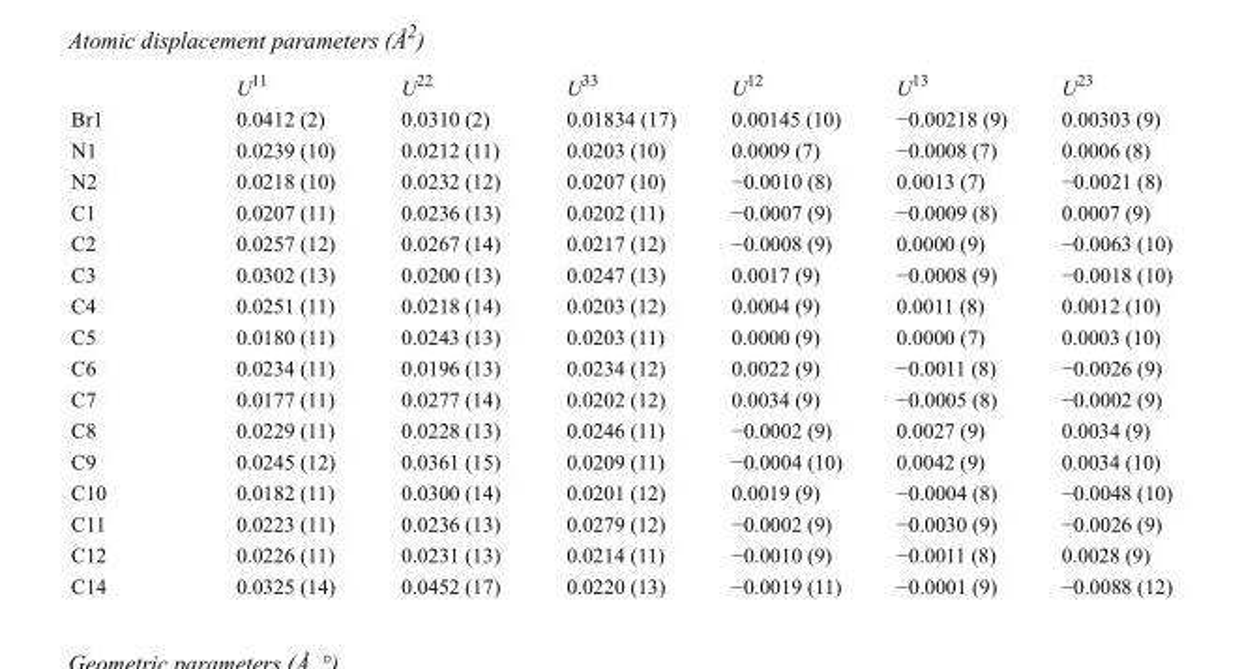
<table><thead><tr><td></td><td>U<sup>11</sup></td><td>U<sup>22</sup></td><td>U<sup>33</sup></td><td>U<sup>12</sup></td><td>U<sup>13</sup></td><td>U<sup>23</sup></td></tr></thead><tbody><tr><td>Br1</td><td>0.0412 (2)</td><td>0.0310 (2)</td><td>0.01834 (17)</td><td>0.00145 (10)</td><td>−0.00218 (9)</td><td>0.00303 (9)</td></tr><tr><td>N1</td><td>0.0239 (10)</td><td>0.0212 (11)</td><td>0.0203 (10)</td><td>0.0009 (7)</td><td>−0.0008 (7)</td><td>0.0006 (8)</td></tr><tr><td>N2</td><td>0.0218 (10)</td><td>0.0232 (12)</td><td>0.0207 (10)</td><td>−0.0010 (8)</td><td>0.0013 (7)</td><td>−0.0021 (8)</td></tr><tr><td>C1</td><td>0.0207 (11)</td><td>0.0236 (13)</td><td>0.0202 (11)</td><td>−0.0007 (9)</td><td>−0.0009 (8)</td><td>0.0007 (9)</td></tr><tr><td>C2</td><td>0.0257 (12)</td><td>0.0267 (14)</td><td>0.0217 (12)</td><td>−0.0008 (9)</td><td>0.0000 (9)</td><td>−0.0063 (10)</td></tr><tr><td>C3</td><td>0.0302 (13)</td><td>0.0200 (13)</td><td>0.0247 (13)</td><td>0.0017 (9)</td><td>−0.0008 (9)</td><td>−0.0018 (10)</td></tr><tr><td>C4</td><td>0.0251 (11)</td><td>0.0218 (14)</td><td>0.0203 (12)</td><td>0.0004 (9)</td><td>0.0011 (8)</td><td>0.0012 (10)</td></tr><tr><td>C5</td><td>0.0180 (11)</td><td>0.0243 (13)</td><td>0.0203 (11)</td><td>0.0000 (9)</td><td>0.0000 (7)</td><td>0.0003 (10)</td></tr><tr><td>C6</td><td>0.0234 (11)</td><td>0.0196 (13)</td><td>0.0234 (12)</td><td>0.0022 (9)</td><td>−0.0011 (8)</td><td>−0.0026 (9)</td></tr><tr><td>C7</td><td>0.0177 (11)</td><td>0.0277 (14)</td><td>0.0202 (12)</td><td>0.0034 (9)</td><td>−0.0005 (8)</td><td>−0.0002 (9)</td></tr><tr><td>C8</td><td>0.0229 (11)</td><td>0.0228 (13)</td><td>0.0246 (11)</td><td>−0.0002 (9)</td><td>0.0027 (9)</td><td>0.0034 (9)</td></tr><tr><td>C9</td><td>0.0245 (12)</td><td>0.0361 (15)</td><td>0.0209 (11)</td><td>−0.0004 (10)</td><td>0.0042 (9)</td><td>0.0034 (10)</td></tr><tr><td>C10</td><td>0.0182 (11)</td><td>0.0300 (14)</td><td>0.0201 (12)</td><td>0.0019 (9)</td><td>−0.0004 (8)</td><td>−0.0048 (10)</td></tr><tr><td>C11</td><td>0.0223 (11)</td><td>0.0236 (13)</td><td>0.0279 (12)</td><td>−0.0002 (9)</td><td>−0.0030 (9)</td><td>−0.0026 (9)</td></tr><tr><td>C12</td><td>0.0226 (11)</td><td>0.0231 (13)</td><td>0.0214 (11)</td><td>−0.0010 (9)</td><td>−0.0011 (8)</td><td>0.0028 (9)</td></tr><tr><td>C14</td><td>0.0325 (14)</td><td>0.0452 (17)</td><td>0.0220 (13)</td><td>−0.0019 (11)</td><td>−0.0001 (9)</td><td>−0.0088 (12)</td></tr></tbody></table>